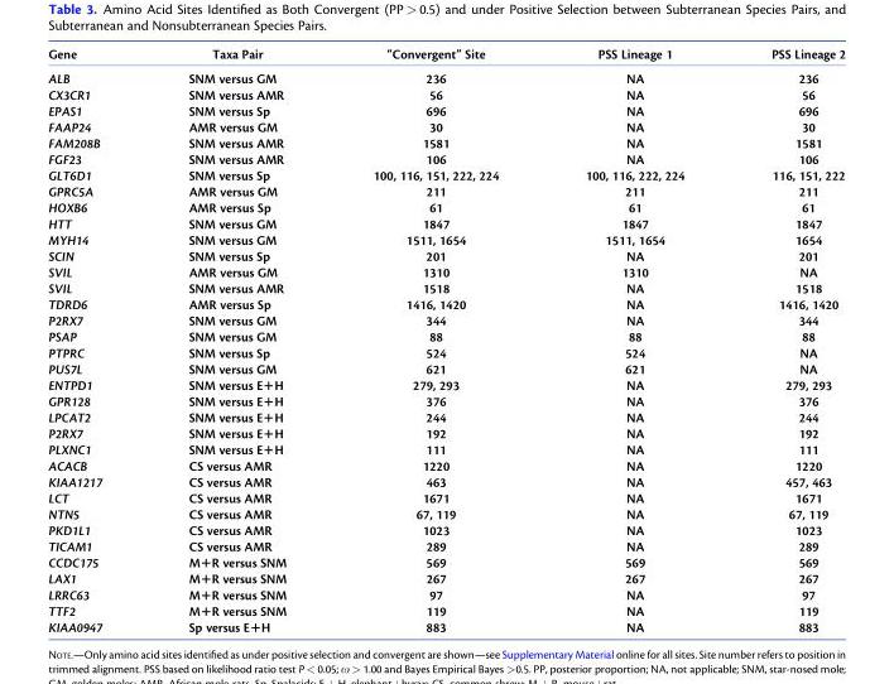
<table><thead><tr><td>Gene</td><td>Taxa Pair</td><td>“Convergent” Site</td><td>PSS Lineage 1</td><td>PSS Lineage 2</td></tr></thead><tbody><tr><td>ALB</td><td>SNM versus GM</td><td>236</td><td>NA</td><td>236</td></tr><tr><td>CX3CR1</td><td>SNM versus AMR</td><td>56</td><td>NA</td><td>56</td></tr><tr><td>EPAS1</td><td>SNM versus Sp</td><td>696</td><td>NA</td><td>696</td></tr><tr><td>FAAP24</td><td>AMR versus GM</td><td>30</td><td>NA</td><td>30</td></tr><tr><td>FAM208B</td><td>SNM versus AMR</td><td>1581</td><td>NA</td><td>1581</td></tr><tr><td>FGF23</td><td>SNM versus AMR</td><td>106</td><td>NA</td><td>106</td></tr><tr><td>GLT6D1</td><td>SNM versus Sp</td><td>100, 116, 151, 222, 224</td><td>100, 116, 222, 224</td><td>116, 151, 222</td></tr><tr><td>GPRC5A</td><td>AMR versus GM</td><td>211</td><td>211</td><td>211</td></tr><tr><td>HOXB6</td><td>AMR versus Sp</td><td>61</td><td>61</td><td>61</td></tr><tr><td>HTT</td><td>SNM versus GM</td><td>1847</td><td>1847</td><td>1847</td></tr><tr><td>MYH14</td><td>SNM versus GM</td><td>1511, 1654</td><td>1511, 1654</td><td>1654</td></tr><tr><td>SCIN</td><td>SNM versus Sp</td><td>201</td><td>NA</td><td>201</td></tr><tr><td>SVIL</td><td>AMR versus GM</td><td>1310</td><td>1310</td><td>NA</td></tr><tr><td>SVIL</td><td>SNM versus AMR</td><td>1518</td><td>NA</td><td>1518</td></tr><tr><td>TDRD6</td><td>AMR versus Sp</td><td>1416, 1420</td><td>NA</td><td>1416, 1420</td></tr><tr><td>P2RX7</td><td>SNM versus GM</td><td>344</td><td>NA</td><td>344</td></tr><tr><td>PSAP</td><td>SNM versus GM</td><td>88</td><td>88</td><td>88</td></tr><tr><td>PTPRC</td><td>SNM versus Sp</td><td>524</td><td>524</td><td>NA</td></tr><tr><td>PUS7L</td><td>SNM versus GM</td><td>621</td><td>621</td><td>NA</td></tr><tr><td>ENTPD1</td><td>SNM versus E+H</td><td>279, 293</td><td>NA</td><td>279, 293</td></tr><tr><td>GPR128</td><td>SNM versus E+H</td><td>376</td><td>NA</td><td>376</td></tr><tr><td>LPCAT2</td><td>SNM versus E+H</td><td>244</td><td>NA</td><td>244</td></tr><tr><td>P2RX7</td><td>SNM versus E+H</td><td>192</td><td>NA</td><td>192</td></tr><tr><td>PLXNC1</td><td>SNM versus E+H</td><td>111</td><td>NA</td><td>111</td></tr><tr><td>ACACB</td><td>CS versus AMR</td><td>1220</td><td>NA</td><td>1220</td></tr><tr><td>KIAA1217</td><td>CS versus AMR</td><td>463</td><td>NA</td><td>457, 463</td></tr><tr><td>LCT</td><td>CS versus AMR</td><td>1671</td><td>NA</td><td>1671</td></tr><tr><td>NTN5</td><td>CS versus AMR</td><td>67, 119</td><td>NA</td><td>67, 119</td></tr><tr><td>PKD1L1</td><td>CS versus AMR</td><td>1023</td><td>NA</td><td>1023</td></tr><tr><td>TICAM1</td><td>CS versus AMR</td><td>289</td><td>NA</td><td>289</td></tr><tr><td>CCDC175</td><td>M+R versus SNM</td><td>569</td><td>569</td><td>569</td></tr><tr><td>LAX1</td><td>M+R versus SNM</td><td>267</td><td>267</td><td>267</td></tr><tr><td>LRRC63</td><td>M+R versus SNM</td><td>97</td><td>NA</td><td>97</td></tr><tr><td>TTF2</td><td>M+R versus SNM</td><td>119</td><td>NA</td><td>119</td></tr><tr><td>KIAA0947</td><td>Sp versus E+H</td><td>883</td><td>NA</td><td>883</td></tr></tbody></table>